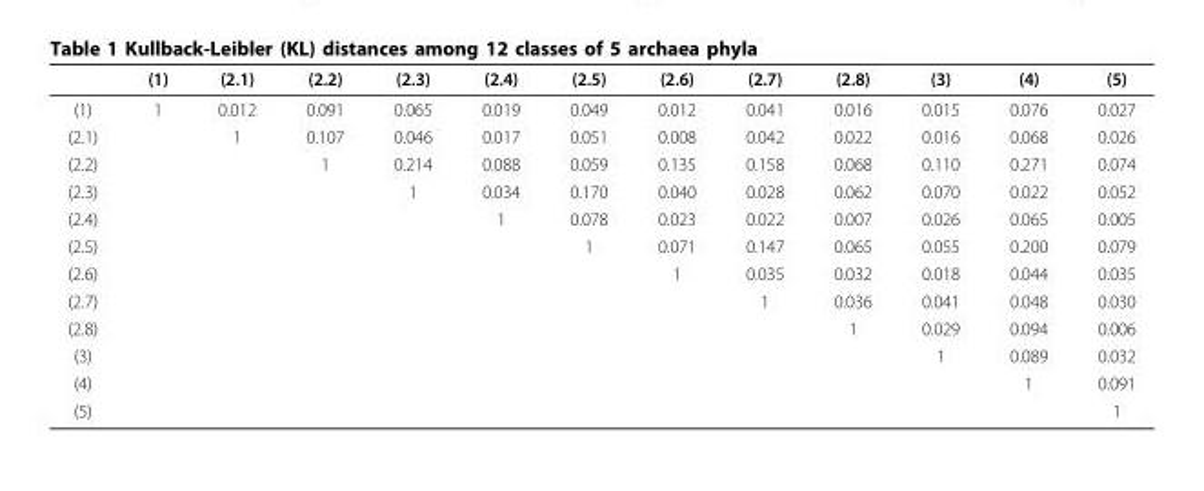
<table><thead><tr><td></td><td>(1)</td><td>(2.1)</td><td>(2.2)</td><td>(2.3)</td><td>(2.4)</td><td>(2.5)</td><td>(2.6)</td><td>(2.7)</td><td>(2.8)</td><td>(3)</td><td>(4)</td><td>(5)</td></tr></thead><tbody><tr><td>(1)</td><td>1</td><td>0.012</td><td>0.091</td><td>0.065</td><td>0.019</td><td>0.049</td><td>0.012</td><td>0.041</td><td>0.016</td><td>0.015</td><td>0.076</td><td>0.027</td></tr><tr><td>(2.1)</td><td></td><td>1</td><td>0.107</td><td>0.046</td><td>0.017</td><td>0.051</td><td>0.008</td><td>0.042</td><td>0.022</td><td>0.016</td><td>0.068</td><td>0.026</td></tr><tr><td>(2.2)</td><td></td><td></td><td>1</td><td>0.214</td><td>0.088</td><td>0.059</td><td>0.135</td><td>0.158</td><td>0.068</td><td>0.110</td><td>0.271</td><td>0.074</td></tr><tr><td>(2.3)</td><td></td><td></td><td></td><td>1</td><td>0.034</td><td>0.170</td><td>0.040</td><td>0.028</td><td>0.062</td><td>0.070</td><td>0.022</td><td>0.052</td></tr><tr><td>(2.4)</td><td></td><td></td><td></td><td></td><td>1</td><td>0.078</td><td>0.023</td><td>0.022</td><td>0.007</td><td>0.026</td><td>0.065</td><td>0.005</td></tr><tr><td>(2.5)</td><td></td><td></td><td></td><td></td><td></td><td>1</td><td>0.071</td><td>0.147</td><td>0.065</td><td>0.055</td><td>0.200</td><td>0.079</td></tr><tr><td>(2.6)</td><td></td><td></td><td></td><td></td><td></td><td></td><td>1</td><td>0.035</td><td>0.032</td><td>0.018</td><td>0.044</td><td>0.035</td></tr><tr><td>(2.7)</td><td></td><td></td><td></td><td></td><td></td><td></td><td></td><td>1</td><td>0.036</td><td>0.041</td><td>0.048</td><td>0.030</td></tr><tr><td>(2.8)</td><td></td><td></td><td></td><td></td><td></td><td></td><td></td><td></td><td>1</td><td>0.029</td><td>0.094</td><td>0.006</td></tr><tr><td>(3)</td><td></td><td></td><td></td><td></td><td></td><td></td><td></td><td></td><td></td><td>1</td><td>0.089</td><td>0.032</td></tr><tr><td>(4)</td><td></td><td></td><td></td><td></td><td></td><td></td><td></td><td></td><td></td><td></td><td>1</td><td>0.091</td></tr><tr><td>(5)</td><td></td><td></td><td></td><td></td><td></td><td></td><td></td><td></td><td></td><td></td><td></td><td>1</td></tr></tbody></table>